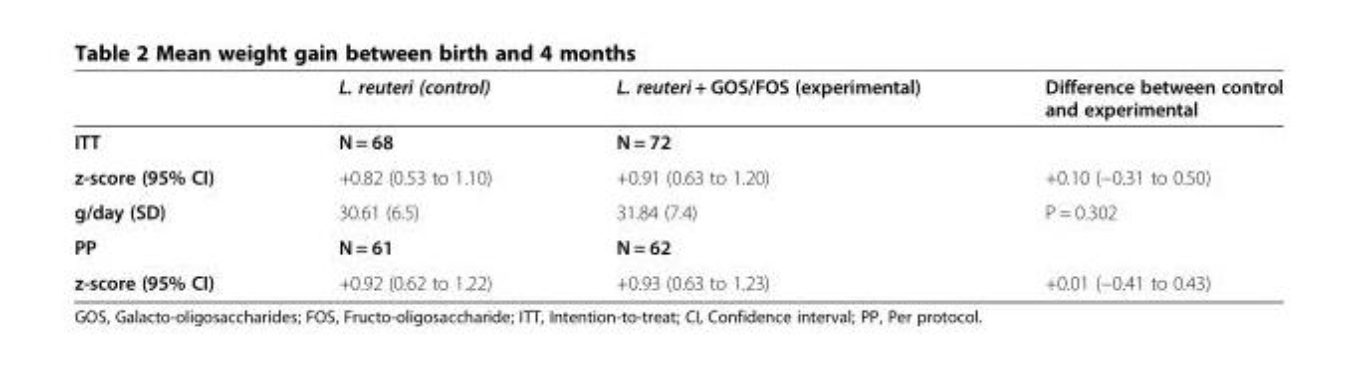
<table><thead><tr><td></td><td>L. reuteri (control)</td><td>L. reuteri + GOS/FOS (experimental)</td><td>Difference between control and experimental</td></tr></thead><tbody><tr><td>ITT</td><td>N = 68</td><td>N = 72</td><td></td></tr><tr><td>z-score (95% CI)</td><td>+0.82 (0.53 to 1.10)</td><td>+0.91 (0.63 to 1.20)</td><td>+0.10 (−0.31 to 0.50)</td></tr><tr><td>g/day (SD)</td><td>30.61 (6.5)</td><td>31.84 (7.4)</td><td>P = 0.302</td></tr><tr><td>PP</td><td>N = 61</td><td>N = 62</td><td></td></tr><tr><td>z-score (95% CI)</td><td>+0.92 (0.62 to 1.22)</td><td>+0.93 (0.63 to 1.23)</td><td>+0.01 (−0.41 to 0.43)</td></tr></tbody></table>